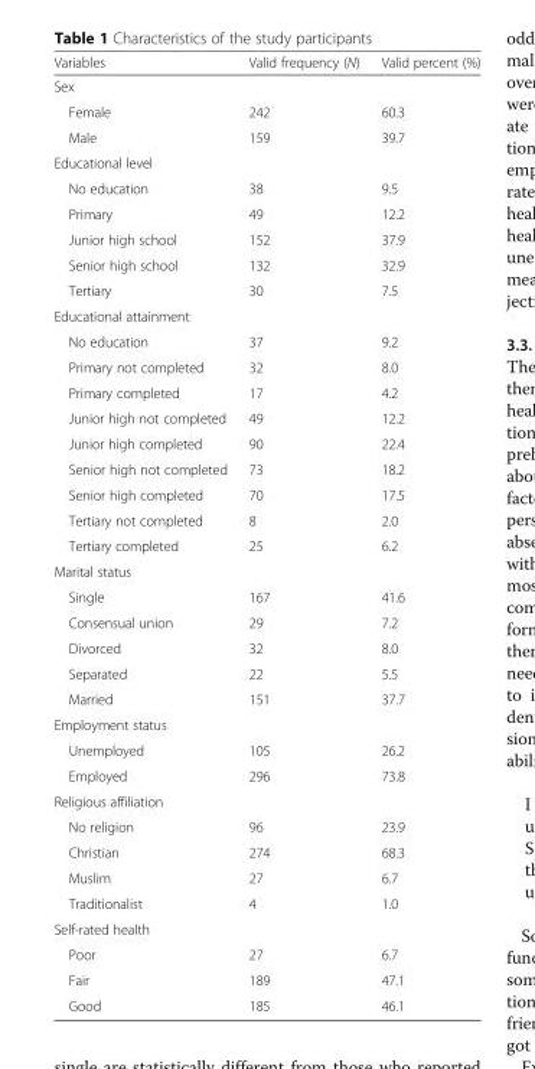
<table><thead><tr><td>Variables</td><td>Valid frequency (N)</td><td>Valid percent (%)</td></tr></thead><tbody><tr><td colspan="3">Sex</td></tr><tr><td>Female</td><td>242</td><td>60.3</td></tr><tr><td>Male</td><td>159</td><td>39.7</td></tr><tr><td colspan="3">Educational level</td></tr><tr><td>No education</td><td>38</td><td>9.5</td></tr><tr><td>Primary</td><td>49</td><td>12.2</td></tr><tr><td>Junior high school</td><td>152</td><td>37.9</td></tr><tr><td>Senior high school</td><td>132</td><td>32.9</td></tr><tr><td>Tertiary</td><td>30</td><td>7.5</td></tr><tr><td colspan="3">Educational attainment</td></tr><tr><td>No education</td><td>37</td><td>9.2</td></tr><tr><td>Primary not completed</td><td>32</td><td>8.0</td></tr><tr><td>Primary completed</td><td>17</td><td>4.2</td></tr><tr><td>Junior high not completed</td><td>49</td><td>12.2</td></tr><tr><td>Junior high completed</td><td>90</td><td>22.4</td></tr><tr><td>Senior high not completed</td><td>73</td><td>18.2</td></tr><tr><td>Senior high completed</td><td>70</td><td>17.5</td></tr><tr><td>Tertiary not completed</td><td>8</td><td>2.0</td></tr><tr><td>Tertiary completed</td><td>25</td><td>6.2</td></tr><tr><td colspan="3">Marital status</td></tr><tr><td>Single</td><td>167</td><td>41.6</td></tr><tr><td>Consensual union</td><td>29</td><td>7.2</td></tr><tr><td>Divorced</td><td>32</td><td>8.0</td></tr><tr><td>Separated</td><td>22</td><td>5.5</td></tr><tr><td>Married</td><td>151</td><td>37.7</td></tr><tr><td colspan="3">Employment status</td></tr><tr><td>Unemployed</td><td>105</td><td>26.2</td></tr><tr><td>Employed</td><td>296</td><td>73.8</td></tr><tr><td colspan="3">Religious affiliation</td></tr><tr><td>No religion</td><td>96</td><td>23.9</td></tr><tr><td>Christian</td><td>274</td><td>68.3</td></tr><tr><td>Muslim</td><td>27</td><td>6.7</td></tr><tr><td>Traditionalist</td><td>4</td><td>1.0</td></tr><tr><td colspan="3">Self-rated health</td></tr><tr><td>Poor</td><td>27</td><td>6.7</td></tr><tr><td>Fair</td><td>189</td><td>47.1</td></tr><tr><td>Good</td><td>185</td><td>46.1</td></tr></tbody></table>